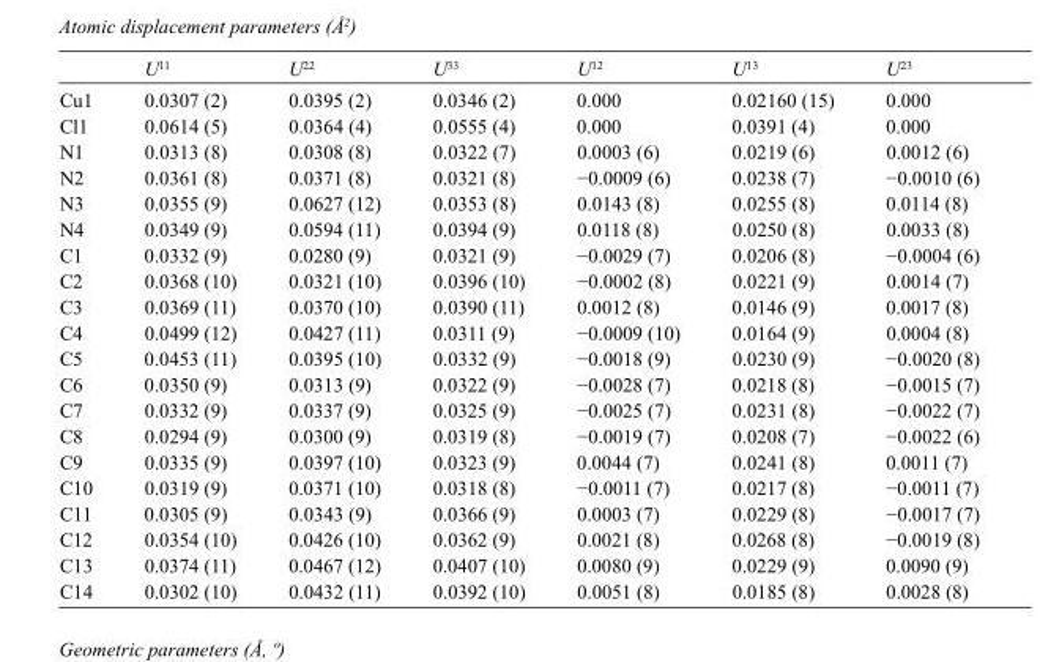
<table><thead><tr><td></td><td>U<sup>11</sup></td><td>U<sup>22</sup></td><td>U<sup>33</sup></td><td>U<sup>12</sup></td><td>U<sup>13</sup></td><td>U<sup>23</sup></td></tr></thead><tbody><tr><td>Cu1</td><td>0.0307 (2)</td><td>0.0395 (2)</td><td>0.0346 (2)</td><td>0.000</td><td>0.02160 (15)</td><td>0.000</td></tr><tr><td>Cl1</td><td>0.0614 (5)</td><td>0.0364 (4)</td><td>0.0555 (4)</td><td>0.000</td><td>0.0391 (4)</td><td>0.000</td></tr><tr><td>N1</td><td>0.0313 (8)</td><td>0.0308 (8)</td><td>0.0322 (7)</td><td>0.0003 (6)</td><td>0.0219 (6)</td><td>0.0012 (6)</td></tr><tr><td>N2</td><td>0.0361 (8)</td><td>0.0371 (8)</td><td>0.0321 (8)</td><td>−0.0009 (6)</td><td>0.0238 (7)</td><td>−0.0010 (6)</td></tr><tr><td>N3</td><td>0.0355 (9)</td><td>0.0627 (12)</td><td>0.0353 (8)</td><td>0.0143 (8)</td><td>0.0255 (8)</td><td>0.0114 (8)</td></tr><tr><td>N4</td><td>0.0349 (9)</td><td>0.0594 (11)</td><td>0.0394 (9)</td><td>0.0118 (8)</td><td>0.0250 (8)</td><td>0.0033 (8)</td></tr><tr><td>C1</td><td>0.0332 (9)</td><td>0.0280 (9)</td><td>0.0321 (9)</td><td>−0.0029 (7)</td><td>0.0206 (8)</td><td>−0.0004 (6)</td></tr><tr><td>C2</td><td>0.0368 (10)</td><td>0.0321 (10)</td><td>0.0396 (10)</td><td>−0.0002 (8)</td><td>0.0221 (9)</td><td>0.0014 (7)</td></tr><tr><td>C3</td><td>0.0369 (11)</td><td>0.0370 (10)</td><td>0.0390 (11)</td><td>0.0012 (8)</td><td>0.0146 (9)</td><td>0.0017 (8)</td></tr><tr><td>C4</td><td>0.0499 (12)</td><td>0.0427 (11)</td><td>0.0311 (9)</td><td>−0.0009 (10)</td><td>0.0164 (9)</td><td>0.0004 (8)</td></tr><tr><td>C5</td><td>0.0453 (11)</td><td>0.0395 (10)</td><td>0.0332 (9)</td><td>−0.0018 (9)</td><td>0.0230 (9)</td><td>−0.0020 (8)</td></tr><tr><td>C6</td><td>0.0350 (9)</td><td>0.0313 (9)</td><td>0.0322 (9)</td><td>−0.0028 (7)</td><td>0.0218 (8)</td><td>−0.0015 (7)</td></tr><tr><td>C7</td><td>0.0332 (9)</td><td>0.0337 (9)</td><td>0.0325 (9)</td><td>−0.0025 (7)</td><td>0.0231 (8)</td><td>−0.0022 (7)</td></tr><tr><td>C8</td><td>0.0294 (9)</td><td>0.0300 (9)</td><td>0.0319 (8)</td><td>−0.0019 (7)</td><td>0.0208 (7)</td><td>−0.0022 (6)</td></tr><tr><td>C9</td><td>0.0335 (9)</td><td>0.0397 (10)</td><td>0.0323 (9)</td><td>0.0044 (7)</td><td>0.0241 (8)</td><td>0.0011 (7)</td></tr><tr><td>C10</td><td>0.0319 (9)</td><td>0.0371 (10)</td><td>0.0318 (8)</td><td>−0.0011 (7)</td><td>0.0217 (8)</td><td>−0.0011 (7)</td></tr><tr><td>C11</td><td>0.0305 (9)</td><td>0.0343 (9)</td><td>0.0366 (9)</td><td>0.0003 (7)</td><td>0.0229 (8)</td><td>−0.0017 (7)</td></tr><tr><td>C12</td><td>0.0354 (10)</td><td>0.0426 (10)</td><td>0.0362 (9)</td><td>0.0021 (8)</td><td>0.0268 (8)</td><td>−0.0019 (8)</td></tr><tr><td>C13</td><td>0.0374 (11)</td><td>0.0467 (12)</td><td>0.0407 (10)</td><td>0.0080 (9)</td><td>0.0229 (9)</td><td>0.0090 (9)</td></tr><tr><td>C14</td><td>0.0302 (10)</td><td>0.0432 (11)</td><td>0.0392 (10)</td><td>0.0051 (8)</td><td>0.0185 (8)</td><td>0.0028 (8)</td></tr></tbody></table>